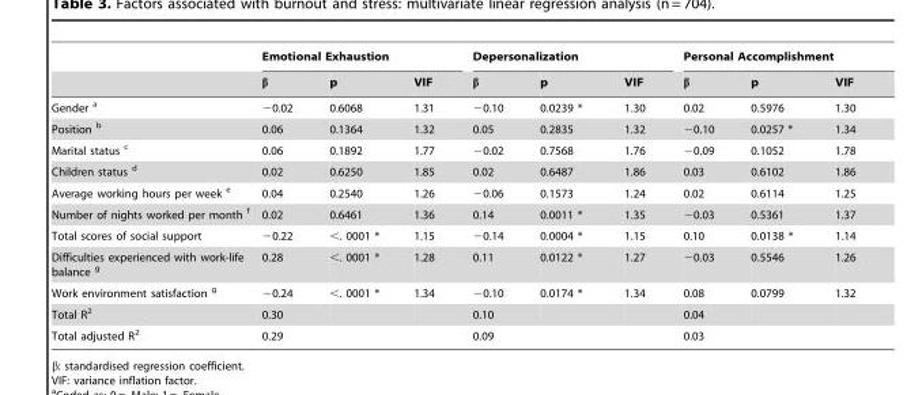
<table><thead><tr><td rowspan="2"></td><td colspan="3">Emotional Exhaustion</td><td colspan="3">Depersonalization</td><td colspan="3">Personal Accomplishment</td></tr><tr><td>β</td><td>p</td><td>VIF</td><td>β</td><td>p</td><td>VIF</td><td>β</td><td>p</td><td>VIF</td></tr></thead><tbody><tr><td>Gender a</td><td>−0.02</td><td>0.6068</td><td>1.31</td><td>−0.10</td><td>0.0239 *</td><td>1.30</td><td>0.02</td><td>0.5976</td><td>1.30</td></tr><tr><td>Position b</td><td>0.06</td><td>0.1364</td><td>1.32</td><td>0.05</td><td>0.2835</td><td>1.32</td><td>−0.10</td><td>0.0257 *</td><td>1.34</td></tr><tr><td>Marital status c</td><td>0.06</td><td>0.1892</td><td>1.77</td><td>−0.02</td><td>0.7568</td><td>1.76</td><td>−0.09</td><td>0.1052</td><td>1.78</td></tr><tr><td>Children status d</td><td>0.02</td><td>0.6250</td><td>1.85</td><td>0.02</td><td>0.6487</td><td>1.86</td><td>0.03</td><td>0.6102</td><td>1.86</td></tr><tr><td>Average working hours per week e</td><td>0.04</td><td>0.2540</td><td>1.26</td><td>−0.06</td><td>0.1573</td><td>1.24</td><td>0.02</td><td>0.6114</td><td>1.25</td></tr><tr><td>Number of nights worked per month f</td><td>0.02</td><td>0.6461</td><td>1.36</td><td>0.14</td><td>0.0011 *</td><td>1.35</td><td>−0.03</td><td>0.5361</td><td>1.37</td></tr><tr><td>Total scores of social support</td><td>−0.22</td><td>&lt;. 0001 *</td><td>1.15</td><td>−0.14</td><td>0.0004 *</td><td>1.15</td><td>0.10</td><td>0.0138 *</td><td>1.14</td></tr><tr><td>Difficulties experienced with work-life balance g</td><td>0.28</td><td>&lt;. 0001 *</td><td>1.28</td><td>0.11</td><td>0.0122 *</td><td>1.27</td><td>−0.03</td><td>0.5546</td><td>1.26</td></tr><tr><td>Work environment satisfaction g</td><td>−0.24</td><td>&lt;. 0001 *</td><td>1.34</td><td>−0.10</td><td>0.0174 *</td><td>1.34</td><td>0.08</td><td>0.0799</td><td>1.32</td></tr><tr><td>Total R<sup>2</sup></td><td>0.30</td><td></td><td></td><td>0.10</td><td></td><td></td><td>0.04</td><td></td><td></td></tr><tr><td>Total adjusted R<sup>2</sup></td><td>0.29</td><td></td><td></td><td>0.09</td><td></td><td></td><td>0.03</td><td></td><td></td></tr></tbody></table>